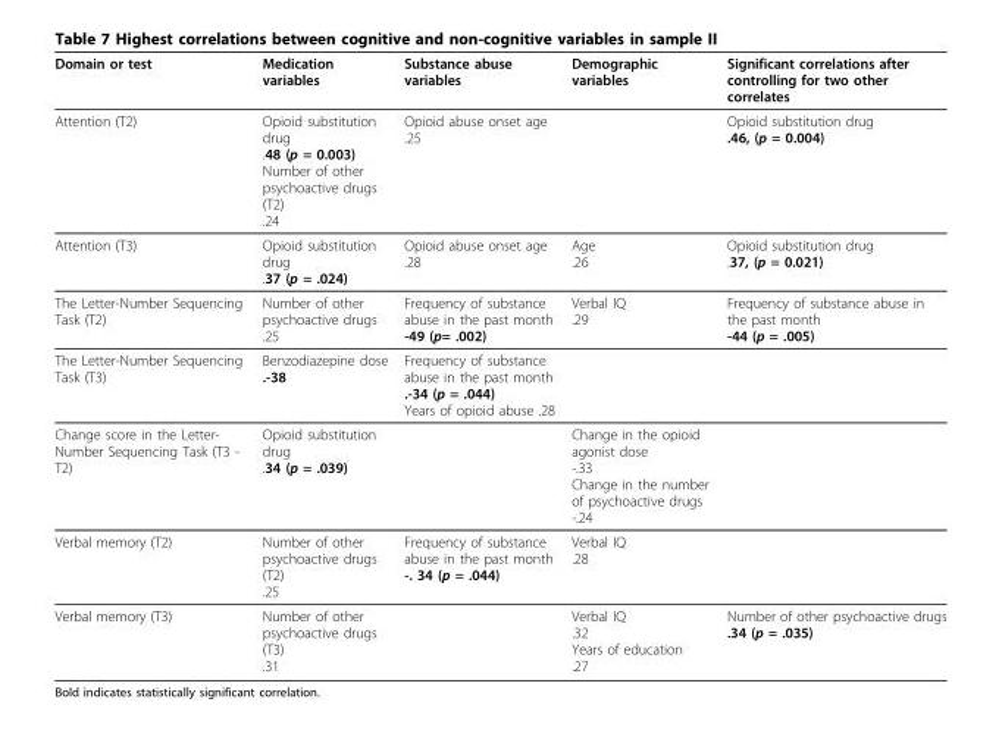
<table><thead><tr><td>Domain or test</td><td>Medication variables</td><td>Substance abuse variables</td><td>Demographic variables</td><td>Significant correlations after controlling for two other correlates</td></tr></thead><tbody><tr><td>Attention (T2)</td><td>Opioid substitution drug .48 (p = 0.003) Number of other psychoactive drugs (T2) .24</td><td>Opioid abuse onset age .25</td><td></td><td>Opioid substitution drug .46, (p = 0.004)</td></tr><tr><td>Attention (T3)</td><td>Opioid substitution drug .37 (p = .024)</td><td>Opioid abuse onset age .28</td><td>Age .26</td><td>Opioid substitution drug .37, (p = 0.021)</td></tr><tr><td>The Letter-Number Sequencing Task (T2)</td><td>Number of other psychoactive drugs .25</td><td>Frequency of substance abuse in the past month -49 (p= .002)</td><td>Verbal IQ .29</td><td>Frequency of substance abuse in the past month -44 (p = .005)</td></tr><tr><td>The Letter-Number Sequencing Task (T3)</td><td>Benzodiazepine dose .-38</td><td>Frequency of substance abuse in the past month .-34 (p = .044) Years of opioid abuse .28</td><td></td><td></td></tr><tr><td>Change score in the Letter- Number Sequencing Task (T3 - T2)</td><td>Opioid substitution drug .34 (p = .039)</td><td></td><td>Change in the opioid agonist dose -.33 Change in the number of psychoactive drugs -.24</td><td></td></tr><tr><td>Verbal memory (T2)</td><td>Number of other psychoactive drugs (T2) .25</td><td>Frequency of substance abuse in the past month -. 34 (p = .044)</td><td>Verbal IQ .28</td><td></td></tr><tr><td>Verbal memory (T3)</td><td>Number of other psychoactive drugs (T3) .31</td><td></td><td>Verbal IQ .32 Years of education .27</td><td>Number of other psychoactive drugs .34 (p = .035)</td></tr></tbody></table>